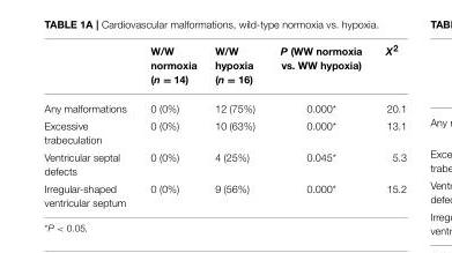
<table><thead><tr><td></td><td>W/W normoxia (n = 14)</td><td>W/W hypoxia (n = 16)</td><td>P (WW normoxia vs. WW hypoxia)</td><td>X<sup>2</sup></td></tr></thead><tbody><tr><td>Any malformations</td><td>0 (0%)</td><td>12 (75%)</td><td>0.000*</td><td>20.1</td></tr><tr><td>Excessive trabeculation</td><td>0 (0%)</td><td>10 (63%)</td><td>0.000*</td><td>13.1</td></tr><tr><td>Ventricular septal defects</td><td>0 (0%)</td><td>4 (25%)</td><td>0.045*</td><td>5.3</td></tr><tr><td>Irregular-shaped ventricular septum</td><td>0 (0%)</td><td>9 (56%)</td><td>0.000*</td><td>15.2</td></tr></tbody></table>